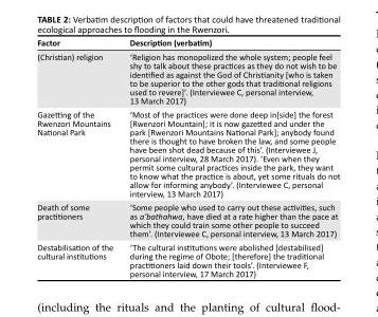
<table><thead><tr><td>Factor</td><td>Description (verbatim)</td></tr></thead><tbody><tr><td>(Christian) religion</td><td>‘Religion has monopolized the whole system; people feel shy to talk about these practices as they do not wish to be identified as against the God of Christianity [who is taken to be superior to the other gods that traditional religions used to revere]’. (Interviewee C, personal interview, 13 March 2017)</td></tr><tr><td>Gazetting of the Rwenzori Mountains National Park</td><td>‘Most of the practices were done deep in[side] the forest [Rwenzori Mountain]; it is now gazetted and under the park [Rwenzori Mountains National Park]; anybody found there is thought to have broken the law, and some people have been shot dead because of this’. (Interviewee J, personal interview, 28 March 2017). ‘Even when they permit some cultural practices inside the park, they want to know what the practice is about, yet some rituals do not allow for informing anybody’. (Interviewee C, personal interview, 13 March 2017)</td></tr><tr><td>Death of some practitioners</td><td>‘Some people who used to carry out these activities, such as a’bathahwa, have died at a rate higher than the pace at which they could train some other people to succeed them’. (Interviewee C, personal interview, 13 March 2017)</td></tr><tr><td>Destabilisation of the cultural institutions</td><td>‘The cultural institutions were abolished [destabilised] during the regime of Obote; [therefore] the traditional practitioners laid down their tools’. (Interviewee F, personal interview, 17 March 2017)</td></tr></tbody></table>